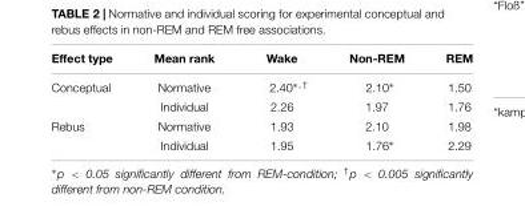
<table><thead><tr><td>Effect type</td><td>Mean rank</td><td>Wake</td><td>Non-REM</td><td>REM</td></tr></thead><tbody><tr><td rowspan="2">Conceptual</td><td>Normative</td><td>2.40<sup>∗,†</sup></td><td>2.10∗</td><td>1.50</td></tr><tr><td>Individual</td><td>2.26</td><td>1.97</td><td>1.76</td></tr><tr><td rowspan="2">Rebus</td><td>Normative</td><td>1.93</td><td>2.10</td><td>1.98</td></tr><tr><td>Individual</td><td>1.95</td><td>1.76∗</td><td>2.29</td></tr></tbody></table>